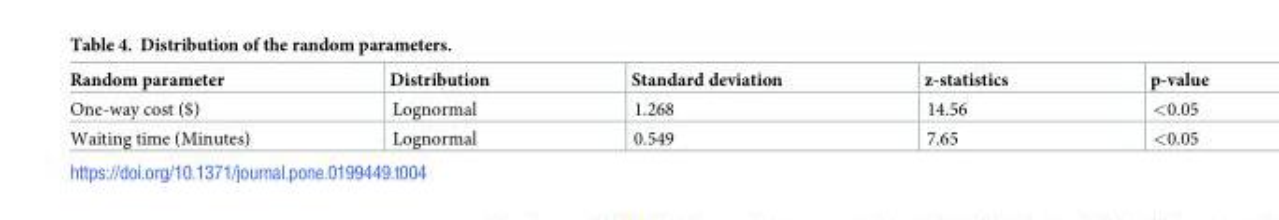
<table><thead><tr><td>Random parameter</td><td>Distribution</td><td>Standard deviation</td><td>z-statistics</td><td>p-value</td></tr></thead><tbody><tr><td>One-way cost ($)</td><td>Lognormal</td><td>1.268</td><td>14.56</td><td>&lt;0.05</td></tr><tr><td>Waiting time (Minutes)</td><td>Lognormal</td><td>0.549</td><td>7.65</td><td>&lt;0.05</td></tr></tbody></table>